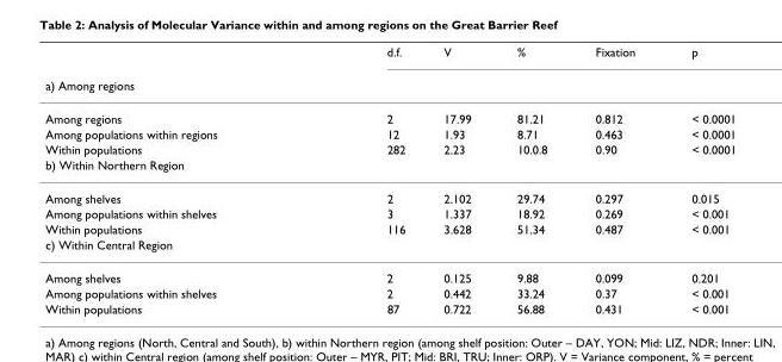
<table><thead><tr><td rowspan="2">a) Among regions</td><td rowspan="2">d.f.</td><td rowspan="2">V</td><td rowspan="2">%</td><td rowspan="2">Fixation</td><td rowspan="2">p</td></tr><tr></tr></thead><tbody><tr><td>Among regions</td><td>2</td><td>17.99</td><td>81.21</td><td>0.812</td><td>&lt; 0.0001</td></tr><tr><td>Among populations within regions</td><td>12</td><td>1.93</td><td>8.71</td><td>0.463</td><td>&lt; 0.0001</td></tr><tr><td>Within populations</td><td>282</td><td>2.23</td><td>10.0.8</td><td>0.90</td><td>&lt; 0.0001</td></tr><tr><td colspan="6">b) Within Northern Region</td></tr><tr><td>Among shelves</td><td>2</td><td>2.102</td><td>29.74</td><td>0.297</td><td>0.015</td></tr><tr><td>Among populations within shelves</td><td>3</td><td>1.337</td><td>18.92</td><td>0.269</td><td>&lt; 0.001</td></tr><tr><td>Within populations</td><td>116</td><td>3.628</td><td>51.34</td><td>0.487</td><td>&lt; 0.001</td></tr><tr><td colspan="6">c) Within Central Region</td></tr><tr><td>Among shelves</td><td>2</td><td>0.125</td><td>9.88</td><td>0.099</td><td>0.201</td></tr><tr><td>Among populations within shelves</td><td>2</td><td>0.442</td><td>33.24</td><td>0.37</td><td>&lt; 0.001</td></tr><tr><td>Within populations</td><td>87</td><td>0.722</td><td>56.88</td><td>0.431</td><td>&lt; 0.001</td></tr></tbody></table>